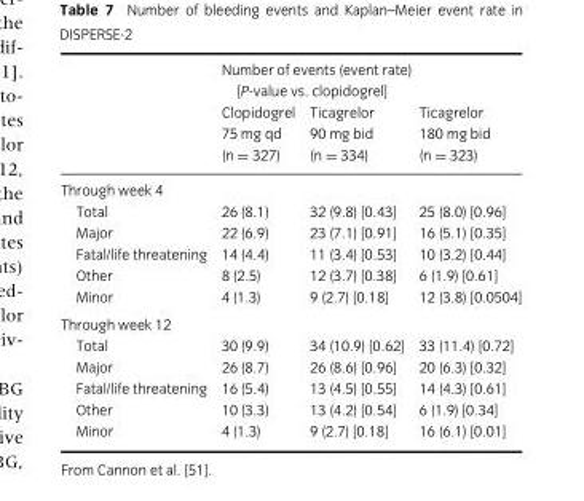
<table><thead><tr><td rowspan="2"></td><td colspan="3">Number of events (event rate) [P-value vs. clopidogrel]</td></tr><tr><td>Clopidogrel 75 mg qd (n = 327)</td><td>Ticagrelor 90 mg bid (n = 334)</td><td>Ticagrelor 180 mg bid (n = 323)</td></tr></thead><tbody><tr><td colspan="4">Through week 4</td></tr><tr><td>Total</td><td>26 (8.1)</td><td>32 (9.8) [0.43]</td><td>25 (8.0) [0.96]</td></tr><tr><td>Major</td><td>22 (6.9)</td><td>23 (7.1) [0.91]</td><td>16 (5.1) [0.35]</td></tr><tr><td>Fatal/life threatening</td><td>14 (4.4)</td><td>11 (3.4) [0.53]</td><td>10 (3.2) [0.44]</td></tr><tr><td>Other</td><td>8 (2.5)</td><td>12 (3.7) [0.38]</td><td>6 (1.9) [0.61]</td></tr><tr><td>Minor</td><td>4 (1.3)</td><td>9 (2.7) [0.18]</td><td>12 (3.8) [0.0504]</td></tr><tr><td colspan="4">Through week 12</td></tr><tr><td>Total</td><td>30 (9.9)</td><td>34 (10.9) [0.62]</td><td>33 (11.4) [0.72]</td></tr><tr><td>Major</td><td>26 (8.7)</td><td>26 (8.6) [0.96]</td><td>20 (6.3) [0.32]</td></tr><tr><td>Fatal/life threatening</td><td>16 (5.4)</td><td>13 (4.5) [0.55]</td><td>14 (4.3) [0.61]</td></tr><tr><td>Other</td><td>10 (3.3)</td><td>13 (4.2) [0.54]</td><td>6 (1.9) [0.34]</td></tr><tr><td>Minor</td><td>4 (1.3)</td><td>9 (2.7) [0.18]</td><td>16 (6.1) [0.01]</td></tr></tbody></table>